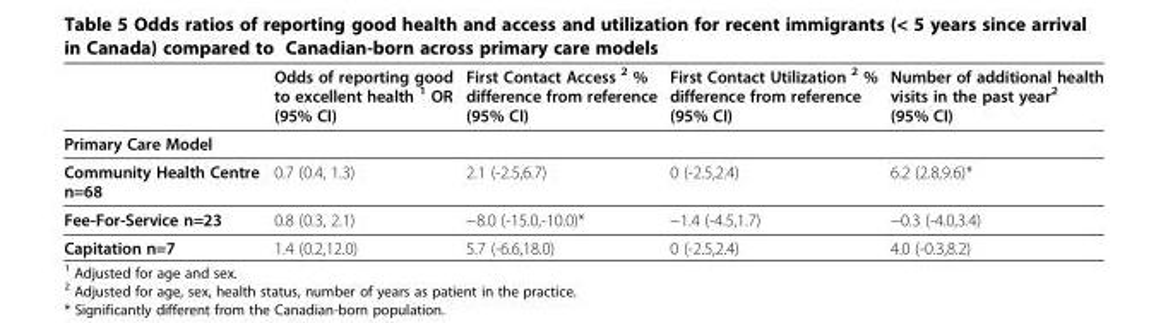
<table><thead><tr><td></td><td>Odds of reporting good to excellent health <sup>1</sup> OR (95% CI)</td><td>First Contact Access <sup>2</sup> % difference from reference (95% CI)</td><td>First Contact Utilization <sup>2</sup> % difference from reference (95% CI)</td><td>Number of additional health visits in the past year<sup>2</sup> (95% CI)</td></tr></thead><tbody><tr><td colspan="5">Primary Care Model</td></tr><tr><td>Community Health Centre n=68</td><td>0.7 (0.4, 1.3)</td><td>2.1 (-2.5,6.7)</td><td>0 (-2.5,2.4)</td><td>6.2 (2.8,9.6)*</td></tr><tr><td>Fee-For-Service n=23</td><td>0.8 (0.3, 2.1)</td><td>−8.0 (-15.0,-10.0)*</td><td>−1.4 (-4.5,1.7)</td><td>−0.3 (-4.0,3.4)</td></tr><tr><td>Capitation n=7</td><td>1.4 (0.2,12.0)</td><td>5.7 (-6.6,18.0)</td><td>0 (-2.5,2.4)</td><td>4.0 (-0.3,8.2)</td></tr></tbody></table>